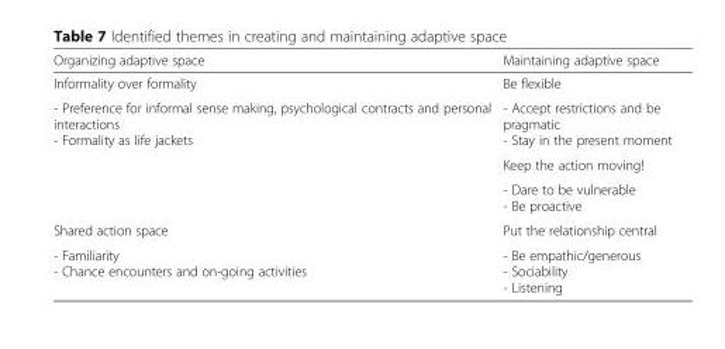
<table><thead><tr><td>Organizing adaptive space</td><td>Maintaining adaptive space</td></tr></thead><tbody><tr><td>Informality over formality</td><td>Be flexible</td></tr><tr><td rowspan="3">- Preference for informal sense making, psychological contracts and personal interactions - Formality as life jackets</td><td>- Accept restrictions and be pragmatic - Stay in the present moment</td></tr><tr><td>Keep the action moving!</td></tr><tr><td>- Dare to be vulnerable - Be proactive</td></tr><tr><td>Shared action space</td><td>Put the relationship central</td></tr><tr><td>- Familiarity - Chance encounters and on-going activities</td><td>- Be empathic/generous - Sociability - Listening</td></tr></tbody></table>